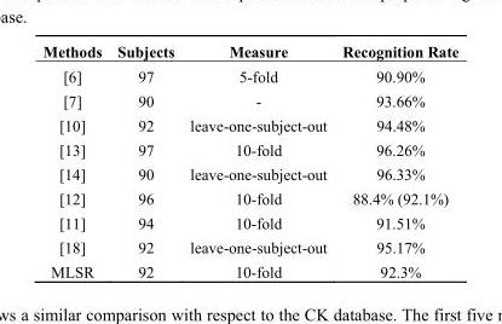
<table><thead><tr><td>Methods</td><td>Subjects</td><td>Measure</td><td>Recognition Rate</td></tr></thead><tbody><tr><td>[6]</td><td>97</td><td>5-fold</td><td>90.90%</td></tr><tr><td>[7]</td><td>90</td><td>-</td><td>93.66%</td></tr><tr><td>[10]</td><td>92</td><td>leave-one-subject-out</td><td>94.48%</td></tr><tr><td>[13]</td><td>97</td><td>10-fold</td><td>96.26%</td></tr><tr><td>[14]</td><td>90</td><td>leave-one-subject-out</td><td>96.33%</td></tr><tr><td>[12]</td><td>96</td><td>10-fold</td><td>88.4% (92.1%)</td></tr><tr><td>[11]</td><td>94</td><td>10-fold</td><td>91.51%</td></tr><tr><td>[18]</td><td>92</td><td>leave-one-subject-out</td><td>95.17%</td></tr><tr><td>MLSR</td><td>92</td><td>10-fold</td><td>92.3%</td></tr></tbody></table>